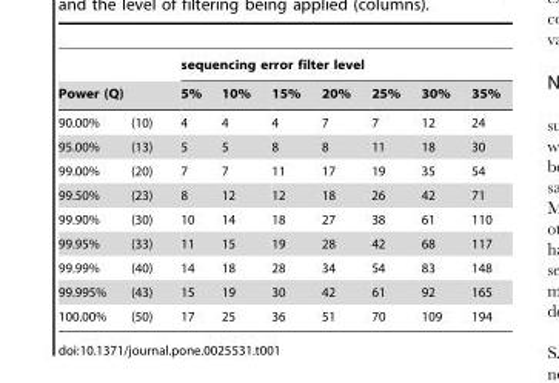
<table><thead><tr><td></td><td></td><td colspan="7">sequencing error filter level</td></tr><tr><td colspan="2">Power (Q)</td><td>5%</td><td>10%</td><td>15%</td><td>20%</td><td>25%</td><td>30%</td><td>35%</td></tr></thead><tbody><tr><td>90.00%</td><td>(10)</td><td>4</td><td>4</td><td>4</td><td>7</td><td>7</td><td>12</td><td>24</td></tr><tr><td>95.00%</td><td>(13)</td><td>5</td><td>5</td><td>8</td><td>8</td><td>11</td><td>18</td><td>30</td></tr><tr><td>99.00%</td><td>(20)</td><td>7</td><td>7</td><td>11</td><td>17</td><td>19</td><td>35</td><td>54</td></tr><tr><td>99.50%</td><td>(23)</td><td>8</td><td>12</td><td>12</td><td>18</td><td>26</td><td>42</td><td>71</td></tr><tr><td>99.90%</td><td>(30)</td><td>10</td><td>14</td><td>18</td><td>27</td><td>38</td><td>61</td><td>110</td></tr><tr><td>99.95%</td><td>(33)</td><td>11</td><td>15</td><td>19</td><td>28</td><td>42</td><td>68</td><td>117</td></tr><tr><td>99.99%</td><td>(40)</td><td>14</td><td>18</td><td>28</td><td>34</td><td>54</td><td>83</td><td>148</td></tr><tr><td>99.995%</td><td>(43)</td><td>15</td><td>19</td><td>30</td><td>42</td><td>61</td><td>92</td><td>165</td></tr><tr><td>100.00%</td><td>(50)</td><td>17</td><td>25</td><td>36</td><td>51</td><td>70</td><td>109</td><td>194</td></tr></tbody></table>